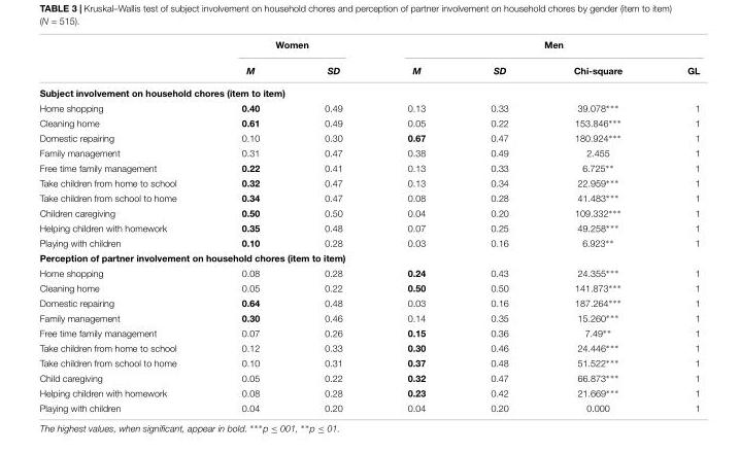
<table><thead><tr><td rowspan="2"></td><td colspan="2">Women</td><td colspan="4">Men</td></tr><tr><td>M</td><td>SD</td><td>M</td><td>SD</td><td>Chi-square</td><td>GL</td></tr></thead><tbody><tr><td colspan="7">Subject involvement on household chores (item to item)</td></tr><tr><td>Home shopping</td><td>0.40</td><td>0.49</td><td>0.13</td><td>0.33</td><td>39.078∗∗∗</td><td>1</td></tr><tr><td>Cleaning home</td><td>0.61</td><td>0.49</td><td>0.05</td><td>0.22</td><td>153.846∗∗∗</td><td>1</td></tr><tr><td>Domestic repairing</td><td>0.10</td><td>0.30</td><td>0.67</td><td>0.47</td><td>180.924∗∗∗</td><td>1</td></tr><tr><td>Family management</td><td>0.31</td><td>0.47</td><td>0.38</td><td>0.49</td><td>2.455</td><td>1</td></tr><tr><td>Free time family management</td><td>0.22</td><td>0.41</td><td>0.13</td><td>0.33</td><td>6.725∗∗</td><td>1</td></tr><tr><td>Take children from home to school</td><td>0.32</td><td>0.47</td><td>0.13</td><td>0.34</td><td>22.959∗∗∗</td><td>1</td></tr><tr><td>Take children from school to home</td><td>0.34</td><td>0.47</td><td>0.08</td><td>0.28</td><td>41.483∗∗∗</td><td>1</td></tr><tr><td>Children caregiving</td><td>0.50</td><td>0.50</td><td>0.04</td><td>0.20</td><td>109.332∗∗∗</td><td>1</td></tr><tr><td>Helping children with homework</td><td>0.35</td><td>0.48</td><td>0.07</td><td>0.25</td><td>49.258∗∗∗</td><td>1</td></tr><tr><td>Playing with children</td><td>0.10</td><td>0.28</td><td>0.03</td><td>0.16</td><td>6.923∗∗</td><td>1</td></tr><tr><td colspan="7">Perception of partner involvement on household chores (item to item)</td></tr><tr><td>Home shopping</td><td>0.08</td><td>0.28</td><td>0.24</td><td>0.43</td><td>24.355∗∗∗</td><td>1</td></tr><tr><td>Cleaning home</td><td>0.05</td><td>0.22</td><td>0.50</td><td>0.50</td><td>141.873∗∗∗</td><td>1</td></tr><tr><td>Domestic repairing</td><td>0.64</td><td>0.48</td><td>0.03</td><td>0.16</td><td>187.264∗∗∗</td><td>1</td></tr><tr><td>Family management</td><td>0.30</td><td>0.46</td><td>0.14</td><td>0.35</td><td>15.260∗∗∗</td><td>1</td></tr><tr><td>Free time family management</td><td>0.07</td><td>0.26</td><td>0.15</td><td>0.36</td><td>7.49∗∗</td><td>1</td></tr><tr><td>Take children from home to school</td><td>0.12</td><td>0.33</td><td>0.30</td><td>0.46</td><td>24.446∗∗∗</td><td>1</td></tr><tr><td>Take children from school to home</td><td>0.10</td><td>0.31</td><td>0.37</td><td>0.48</td><td>51.522∗∗∗</td><td>1</td></tr><tr><td>Child caregiving</td><td>0.05</td><td>0.22</td><td>0.32</td><td>0.47</td><td>66.873∗∗∗</td><td>1</td></tr><tr><td>Helping children with homework</td><td>0.08</td><td>0.28</td><td>0.23</td><td>0.42</td><td>21.669∗∗∗</td><td>1</td></tr><tr><td>Playing with children</td><td>0.04</td><td>0.20</td><td>0.04</td><td>0.20</td><td>0.000</td><td>1</td></tr></tbody></table>